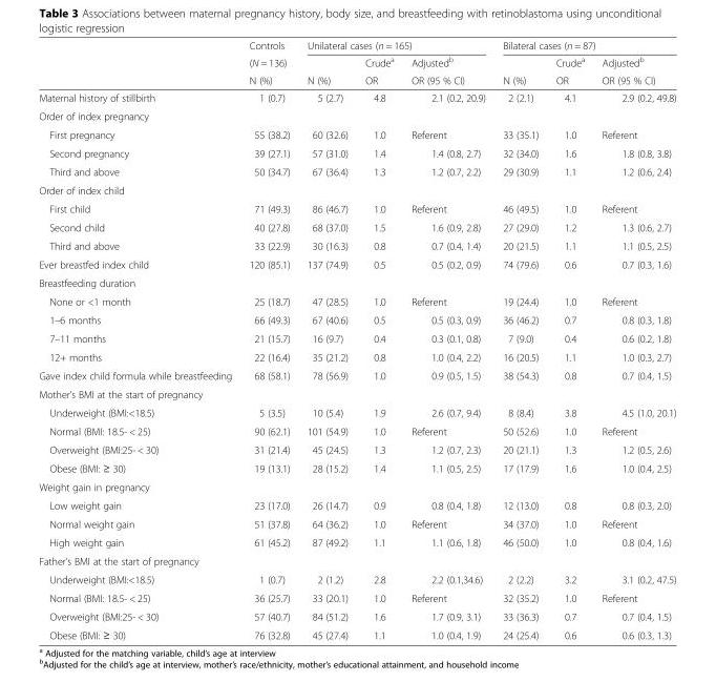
<table><thead><tr><td rowspan="3"></td><td rowspan="3">Controls (N = 136) N (%)</td><td colspan="3">Unilateral cases (n = 165)</td><td colspan="3">Bilateral cases (n = 87)</td></tr><tr><td rowspan="2">N (%)</td><td rowspan="2">Crude<sup>a</sup> OR</td><td rowspan="2">Adjusted<sup>b</sup> OR (95 % CI)</td><td rowspan="2">N (%)</td><td rowspan="2">Crude<sup>a</sup> OR</td><td rowspan="2">Adjusted<sup>b</sup> OR (95 % CI)</td></tr><tr></tr></thead><tbody><tr><td>Maternal history of stillbirth</td><td>1 (0.7)</td><td>5 (2.7)</td><td>4.8</td><td>2.1 (0.2, 20.9)</td><td>2 (2.1)</td><td>4.1</td><td>2.9 (0.2, 49.8)</td></tr><tr><td colspan="8">Order of index pregnancy</td></tr><tr><td>First pregnancy</td><td>55 (38.2)</td><td>60 (32.6)</td><td>1.0</td><td>Referent</td><td>33 (35.1)</td><td>1.0</td><td>Referent</td></tr><tr><td>Second pregnancy</td><td>39 (27.1)</td><td>57 (31.0)</td><td>1.4</td><td>1.4 (0.8, 2.7)</td><td>32 (34.0)</td><td>1.6</td><td>1.8 (0.8, 3.8)</td></tr><tr><td>Third and above</td><td>50 (34.7)</td><td>67 (36.4)</td><td>1.3</td><td>1.2 (0.7, 2.2)</td><td>29 (30.9)</td><td>1.1</td><td>1.2 (0.6, 2.4)</td></tr><tr><td colspan="8">Order of index child</td></tr><tr><td>First child</td><td>71 (49.3)</td><td>86 (46.7)</td><td>1.0</td><td>Referent</td><td>46 (49.5)</td><td>1.0</td><td>Referent</td></tr><tr><td>Second child</td><td>40 (27.8)</td><td>68 (37.0)</td><td>1.5</td><td>1.6 (0.9, 2.8)</td><td>27 (29.0)</td><td>1.2</td><td>1.3 (0.6, 2.7)</td></tr><tr><td>Third and above</td><td>33 (22.9)</td><td>30 (16.3)</td><td>0.8</td><td>0.7 (0.4, 1.4)</td><td>20 (21.5)</td><td>1.1</td><td>1.1 (0.5, 2.5)</td></tr><tr><td>Ever breastfed index child</td><td>120 (85.1)</td><td>137 (74.9)</td><td>0.5</td><td>0.5 (0.2, 0.9)</td><td>74 (79.6)</td><td>0.6</td><td>0.7 (0.3, 1.6)</td></tr><tr><td colspan="8">Breastfeeding duration</td></tr><tr><td>None or &lt;1 month</td><td>25 (18.7)</td><td>47 (28.5)</td><td>1.0</td><td>Referent</td><td>19 (24.4)</td><td>1.0</td><td>Referent</td></tr><tr><td>1–6 months</td><td>66 (49.3)</td><td>67 (40.6)</td><td>0.5</td><td>0.5 (0.3, 0.9)</td><td>36 (46.2)</td><td>0.7</td><td>0.8 (0.3, 1.8)</td></tr><tr><td>7–11 months</td><td>21 (15.7)</td><td>16 (9.7)</td><td>0.4</td><td>0.3 (0.1, 0.8)</td><td>7 (9.0)</td><td>0.4</td><td>0.6 (0.2, 1.8)</td></tr><tr><td>12+ months</td><td>22 (16.4)</td><td>35 (21.2)</td><td>0.8</td><td>1.0 (0.4, 2.2)</td><td>16 (20.5)</td><td>1.1</td><td>1.0 (0.3, 2.7)</td></tr><tr><td>Gave index child formula while breastfeeding</td><td>68 (58.1)</td><td>78 (56.9)</td><td>1.0</td><td>0.9 (0.5, 1.5)</td><td>38 (54.3)</td><td>0.8</td><td>0.7 (0.4, 1.5)</td></tr><tr><td colspan="8">Mother’s BMI at the start of pregnancy</td></tr><tr><td>Underweight (BMI:&lt;18.5)</td><td>5 (3.5)</td><td>10 (5.4)</td><td>1.9</td><td>2.6 (0.7, 9.4)</td><td>8 (8.4)</td><td>3.8</td><td>4.5 (1.0, 20.1)</td></tr><tr><td>Normal (BMI: 18.5- &lt; 25)</td><td>90 (62.1)</td><td>101 (54.9)</td><td>1.0</td><td>Referent</td><td>50 (52.6)</td><td>1.0</td><td>Referent</td></tr><tr><td>Overweight (BMI:25- &lt; 30)</td><td>31 (21.4)</td><td>45 (24.5)</td><td>1.3</td><td>1.2 (0.7, 2.3)</td><td>20 (21.1)</td><td>1.3</td><td>1.2 (0.5, 2.6)</td></tr><tr><td>Obese (BMI: ≥ 30)</td><td>19 (13.1)</td><td>28 (15.2)</td><td>1.4</td><td>1.1 (0.5, 2.5)</td><td>17 (17.9)</td><td>1.6</td><td>1.0 (0.4, 2.5)</td></tr><tr><td colspan="8">Weight gain in pregnancy</td></tr><tr><td>Low weight gain</td><td>23 (17.0)</td><td>26 (14.7)</td><td>0.9</td><td>0.8 (0.4, 1.8)</td><td>12 (13.0)</td><td>0.8</td><td>0.8 (0.3, 2.0)</td></tr><tr><td>Normal weight gain</td><td>51 (37.8)</td><td>64 (36.2)</td><td>1.0</td><td>Referent</td><td>34 (37.0)</td><td>1.0</td><td>Referent</td></tr><tr><td>High weight gain</td><td>61 (45.2)</td><td>87 (49.2)</td><td>1.1</td><td>1.1 (0.6, 1.8)</td><td>46 (50.0)</td><td>1.0</td><td>0.8 (0.4, 1.6)</td></tr><tr><td colspan="8">Father’s BMI at the start of pregnancy</td></tr><tr><td>Underweight (BMI:&lt;18.5)</td><td>1 (0.7)</td><td>2 (1.2)</td><td>2.8</td><td>2.2 (0.1,34.6)</td><td>2 (2.2)</td><td>3.2</td><td>3.1 (0.2, 47.5)</td></tr><tr><td>Normal (BMI: 18.5- &lt; 25)</td><td>36 (25.7)</td><td>33 (20.1)</td><td>1.0</td><td>Referent</td><td>32 (35.2)</td><td>1.0</td><td>Referent</td></tr><tr><td>Overweight (BMI:25- &lt; 30)</td><td>57 (40.7)</td><td>84 (51.2)</td><td>1.6</td><td>1.7 (0.9, 3.1)</td><td>33 (36.3)</td><td>0.7</td><td>0.7 (0.4, 1.5)</td></tr><tr><td>Obese (BMI: ≥ 30)</td><td>76 (32.8)</td><td>45 (27.4)</td><td>1.1</td><td>1.0 (0.4, 1.9)</td><td>24 (25.4)</td><td>0.6</td><td>0.6 (0.3, 1.3)</td></tr></tbody></table>